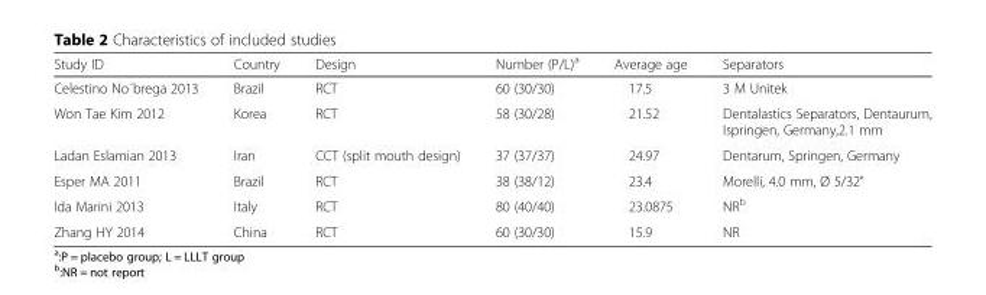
<table><thead><tr><td>Study ID</td><td>Country</td><td>Design</td><td>Number (P/L)<sup>a</sup></td><td>Average age</td><td>Separators</td></tr></thead><tbody><tr><td>Celestino No´brega 2013</td><td>Brazil</td><td>RCT</td><td>60 (30/30)</td><td>17.5</td><td>3 M Unitek</td></tr><tr><td>Won Tae Kim 2012</td><td>Korea</td><td>RCT</td><td>58 (30/28)</td><td>21.52</td><td>Dentalastics Separators, Dentaurum, Ispringen, Germany,2.1 mm</td></tr><tr><td>Ladan Eslamian 2013</td><td>Iran</td><td>CCT (split mouth design)</td><td>37 (37/37)</td><td>24.97</td><td>Dentarum, Springen, Germany</td></tr><tr><td>Esper MA 2011</td><td>Brazil</td><td>RCT</td><td>38 (38/12)</td><td>23.4</td><td>Morelli, 4.0 mm, Ø 5/32&quot;</td></tr><tr><td>Ida Marini 2013</td><td>Italy</td><td>RCT</td><td>80 (40/40)</td><td>23.0875</td><td>NR<sup>b</sup></td></tr><tr><td>Zhang HY 2014</td><td>China</td><td>RCT</td><td>60 (30/30)</td><td>15.9</td><td>NR</td></tr></tbody></table>